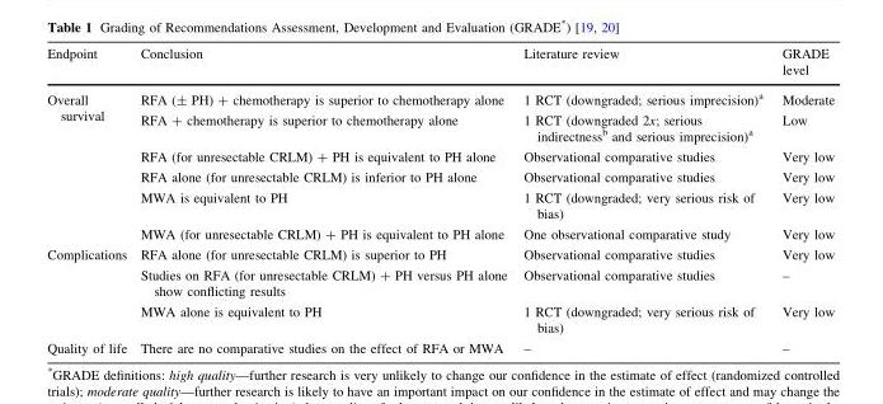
<table><thead><tr><td>Endpoint</td><td>Conclusion</td><td>Literature review</td><td>GRADE level</td></tr></thead><tbody><tr><td rowspan="6">Overall survival</td><td>RFA (± PH) + chemotherapy is superior to chemotherapy alone</td><td>1 RCT (downgraded; serious imprecision)<sup>a</sup></td><td>Moderate</td></tr><tr><td>RFA + chemotherapy is superior to chemotherapy alone</td><td>1 RCT (downgraded 2x; serious indirectness<sup>b</sup> and serious imprecision)<sup>a</sup></td><td>Low</td></tr><tr><td>RFA (for unresectable CRLM) + PH is equivalent to PH alone</td><td>Observational comparative studies</td><td>Very low</td></tr><tr><td>RFA alone (for unresectable CRLM) is inferior to PH alone</td><td>Observational comparative studies</td><td>Very low</td></tr><tr><td>MWA is equivalent to PH</td><td>1 RCT (downgraded; very serious risk of bias)</td><td>Very low</td></tr><tr><td>MWA (for unresectable CRLM) + PH is equivalent to PH alone</td><td>One observational comparative study</td><td>Very low</td></tr><tr><td rowspan="3">Complications</td><td>RFA alone (for unresectable CRLM) is superior to PH</td><td>Observational comparative studies</td><td>Very low</td></tr><tr><td>Studies on RFA (for unresectable CRLM) + PH versus PH alone show conflicting results</td><td>Observational comparative studies</td><td>–</td></tr><tr><td>MWA alone is equivalent to PH</td><td>1 RCT (downgraded; very serious risk of bias)</td><td>Very low</td></tr><tr><td>Quality of life</td><td>There are no comparative studies on the effect of RFA or MWA</td><td>–</td><td>–</td></tr></tbody></table>